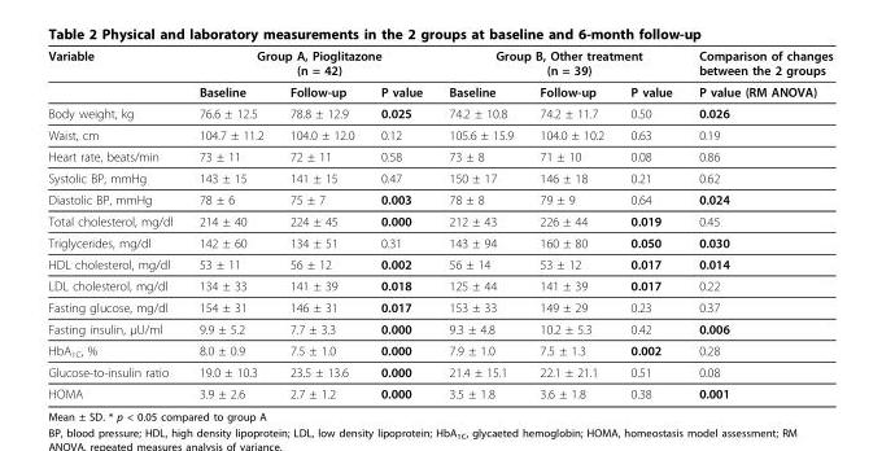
<table><thead><tr><td rowspan="2">Variable</td><td colspan="3">Group A, Pioglitazone (n = 42)</td><td colspan="3">Group B, Other treatment (n = 39)</td><td rowspan="2">Comparison of changes between the 2 groups P value (RM ANOVA)</td></tr><tr><td>Baseline</td><td>Follow-up</td><td>P value</td><td>Baseline</td><td>Follow-up</td><td>P value</td></tr></thead><tbody><tr><td>Body weight, kg</td><td>76.6 ± 12.5</td><td>78.8 ± 12.9</td><td>0.025</td><td>74.2 ± 10.8</td><td>74.2 ± 11.7</td><td>0.50</td><td>0.026</td></tr><tr><td>Waist, cm</td><td>104.7 ± 11.2</td><td>104.0 ± 12.0</td><td>0.12</td><td>105.6 ± 15.9</td><td>104.0 ± 10.2</td><td>0.63</td><td>0.19</td></tr><tr><td>Heart rate, beats/min</td><td>73 ± 11</td><td>72 ± 11</td><td>0.58</td><td>73 ± 8</td><td>71 ± 10</td><td>0.08</td><td>0.86</td></tr><tr><td>Systolic BP, mmHg</td><td>143 ± 15</td><td>141 ± 15</td><td>0.47</td><td>150 ± 17</td><td>146 ± 18</td><td>0.21</td><td>0.62</td></tr><tr><td>Diastolic BP, mmHg</td><td>78 ± 6</td><td>75 ± 7</td><td>0.003</td><td>78 ± 8</td><td>79 ± 9</td><td>0.64</td><td>0.024</td></tr><tr><td>Total cholesterol, mg/dl</td><td>214 ± 40</td><td>224 ± 45</td><td>0.000</td><td>212 ± 43</td><td>226 ± 44</td><td>0.019</td><td>0.45</td></tr><tr><td>Triglycerides, mg/dl</td><td>142 ± 60</td><td>134 ± 51</td><td>0.31</td><td>143 ± 94</td><td>160 ± 80</td><td>0.050</td><td>0.030</td></tr><tr><td>HDL cholesterol, mg/dl</td><td>53 ± 11</td><td>56 ± 12</td><td>0.002</td><td>56 ± 14</td><td>53 ± 12</td><td>0.017</td><td>0.014</td></tr><tr><td>LDL cholesterol, mg/dl</td><td>134 ± 33</td><td>141 ± 39</td><td>0.018</td><td>125 ± 44</td><td>141 ± 39</td><td>0.017</td><td>0.22</td></tr><tr><td>Fasting glucose, mg/dl</td><td>154 ± 31</td><td>146 ± 31</td><td>0.017</td><td>153 ± 33</td><td>149 ± 29</td><td>0.23</td><td>0.37</td></tr><tr><td>Fasting insulin, μU/ml</td><td>9.9 ± 5.2</td><td>7.7 ± 3.3</td><td>0.000</td><td>9.3 ± 4.8</td><td>10.2 ± 5.3</td><td>0.42</td><td>0.006</td></tr><tr><td>HbA<sub>1C</sub>, %</td><td>8.0 ± 0.9</td><td>7.5 ± 1.0</td><td>0.000</td><td>7.9 ± 1.0</td><td>7.5 ± 1.3</td><td>0.002</td><td>0.28</td></tr><tr><td>Glucose-to-insulin ratio</td><td>19.0 ± 10.3</td><td>23.5 ± 13.6</td><td>0.000</td><td>21.4 ± 15.1</td><td>22.1 ± 21.1</td><td>0.51</td><td>0.08</td></tr><tr><td>HOMA</td><td>3.9 ± 2.6</td><td>2.7 ± 1.2</td><td>0.000</td><td>3.5 ± 1.8</td><td>3.6 ± 1.8</td><td>0.38</td><td>0.001</td></tr></tbody></table>